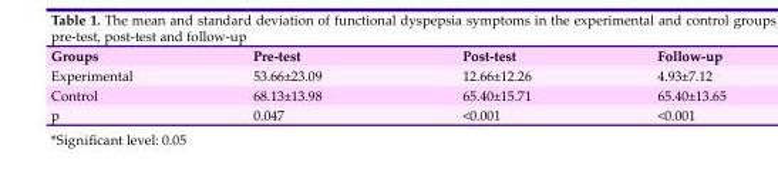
<table><thead><tr><td>Groups</td><td>Pre-test</td><td>Post-test</td><td>Follow-up</td></tr></thead><tbody><tr><td>Experimental</td><td>53.66±23.09</td><td>12.66±12.26</td><td>4.93±7.12</td></tr><tr><td>Control</td><td>68.13±13.98</td><td>65.40±15.71</td><td>65.40±13.65</td></tr><tr><td>p</td><td>0.047</td><td>&lt;0.001</td><td>&lt;0.001</td></tr></tbody></table>